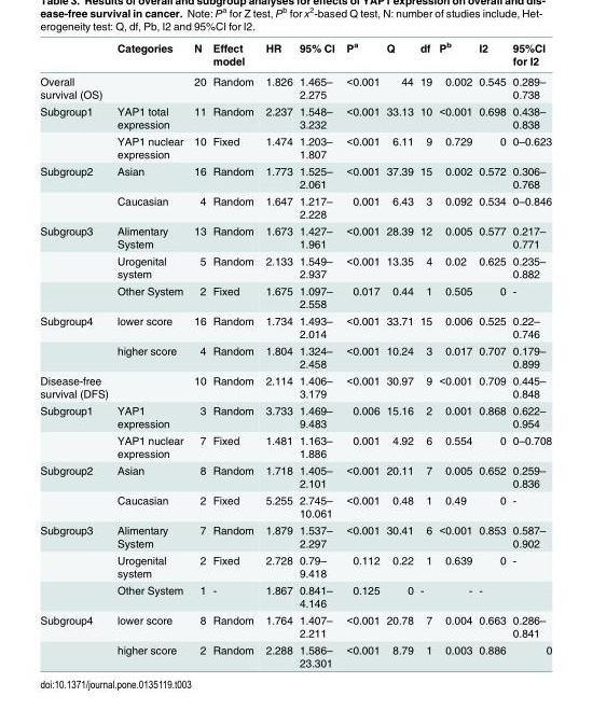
<table><thead><tr><td></td><td>Categories</td><td>N</td><td>Effect model</td><td>HR</td><td>95% CI</td><td>P<sup>a</sup></td><td>Q</td><td>df</td><td>P<sup>b</sup></td><td>I2</td><td>95%CI for I2</td></tr></thead><tbody><tr><td>Overall survival (OS)</td><td></td><td>20</td><td>Random</td><td>1.826</td><td>1.465– 2.275</td><td>&lt;0.001</td><td>44</td><td>19</td><td>0.002</td><td>0.545</td><td>0.289– 0.738</td></tr><tr><td rowspan="2">Subgroup1</td><td>YAP1 total expression</td><td>11</td><td>Random</td><td>2.237</td><td>1.548– 3.232</td><td>&lt;0.001</td><td>33.13</td><td>10</td><td>&lt;0.001</td><td>0.698</td><td>0.438– 0.838</td></tr><tr><td>YAP1 nuclear expression</td><td>10</td><td>Fixed</td><td>1.474</td><td>1.203– 1.807</td><td>&lt;0.001</td><td>6.11</td><td>9</td><td>0.729</td><td>0</td><td>0–0.623</td></tr><tr><td rowspan="2">Subgroup2</td><td>Asian</td><td>16</td><td>Random</td><td>1.773</td><td>1.525– 2.061</td><td>&lt;0.001</td><td>37.39</td><td>15</td><td>0.002</td><td>0.572</td><td>0.306– 0.768</td></tr><tr><td>Caucasian</td><td>4</td><td>Random</td><td>1.647</td><td>1.217– 2.228</td><td>0.001</td><td>6.43</td><td>3</td><td>0.092</td><td>0.534</td><td>0–0.846</td></tr><tr><td rowspan="3">Subgroup3</td><td>Alimentary System</td><td>13</td><td>Random</td><td>1.673</td><td>1.427– 1.961</td><td>&lt;0.001</td><td>28.39</td><td>12</td><td>0.005</td><td>0.577</td><td>0.217– 0.771</td></tr><tr><td>Urogenital system</td><td>5</td><td>Random</td><td>2.133</td><td>1.549– 2.937</td><td>&lt;0.001</td><td>13.35</td><td>4</td><td>0.02</td><td>0.625</td><td>0.235– 0.882</td></tr><tr><td>Other System</td><td>2</td><td>Fixed</td><td>1.675</td><td>1.097– 2.558</td><td>0.017</td><td>0.44</td><td>1</td><td>0.505</td><td>0</td><td>-</td></tr><tr><td rowspan="2">Subgroup4</td><td>lower score</td><td>16</td><td>Random</td><td>1.734</td><td>1.493– 2.014</td><td>&lt;0.001</td><td>33.71</td><td>15</td><td>0.006</td><td>0.525</td><td>0.22– 0.746</td></tr><tr><td>higher score</td><td>4</td><td>Random</td><td>1.804</td><td>1.324– 2.458</td><td>&lt;0.001</td><td>10.24</td><td>3</td><td>0.017</td><td>0.707</td><td>0.179– 0.899</td></tr><tr><td>Disease-free survival (DFS)</td><td></td><td>10</td><td>Random</td><td>2.114</td><td>1.406– 3.179</td><td>&lt;0.001</td><td>30.97</td><td>9</td><td>&lt;0.001</td><td>0.709</td><td>0.445– 0.848</td></tr><tr><td rowspan="2">Subgroup1</td><td>YAP1 expression</td><td>3</td><td>Random</td><td>3.733</td><td>1.469– 9.483</td><td>0.006</td><td>15.16</td><td>2</td><td>0.001</td><td>0.868</td><td>0.622– 0.954</td></tr><tr><td>YAP1 nuclear expression</td><td>7</td><td>Fixed</td><td>1.481</td><td>1.163– 1.886</td><td>0.001</td><td>4.92</td><td>6</td><td>0.554</td><td>0</td><td>0–0.708</td></tr><tr><td rowspan="2">Subgroup2</td><td>Asian</td><td>8</td><td>Random</td><td>1.718</td><td>1.405– 2.101</td><td>&lt;0.001</td><td>20.11</td><td>7</td><td>0.005</td><td>0.652</td><td>0.259– 0.836</td></tr><tr><td>Caucasian</td><td>2</td><td>Fixed</td><td>5.255</td><td>2.745– 10.061</td><td>&lt;0.001</td><td>0.48</td><td>1</td><td>0.49</td><td>0</td><td>-</td></tr><tr><td rowspan="3">Subgroup3</td><td>Alimentary System</td><td>7</td><td>Random</td><td>1.879</td><td>1.537– 2.297</td><td>&lt;0.001</td><td>30.41</td><td>6</td><td>&lt;0.001</td><td>0.853</td><td>0.587– 0.902</td></tr><tr><td>Urogenital system</td><td>2</td><td>Fixed</td><td>2.728</td><td>0.79– 9.418</td><td>0.112</td><td>0.22</td><td>1</td><td>0.639</td><td>0</td><td>-</td></tr><tr><td>Other System</td><td>1</td><td>-</td><td>1.867</td><td>0.841– 4.146</td><td>0.125</td><td>0</td><td>-</td><td>-</td><td>-</td><td></td></tr><tr><td rowspan="2">Subgroup4</td><td>lower score</td><td>8</td><td>Random</td><td>1.764</td><td>1.407– 2.211</td><td>&lt;0.001</td><td>20.78</td><td>7</td><td>0.004</td><td>0.663</td><td>0.286– 0.841</td></tr><tr><td>higher score</td><td>2</td><td>Random</td><td>2.288</td><td>1.586– 23.301</td><td>&lt;0.001</td><td>8.79</td><td>1</td><td>0.003</td><td>0.886</td><td>0</td></tr></tbody></table>